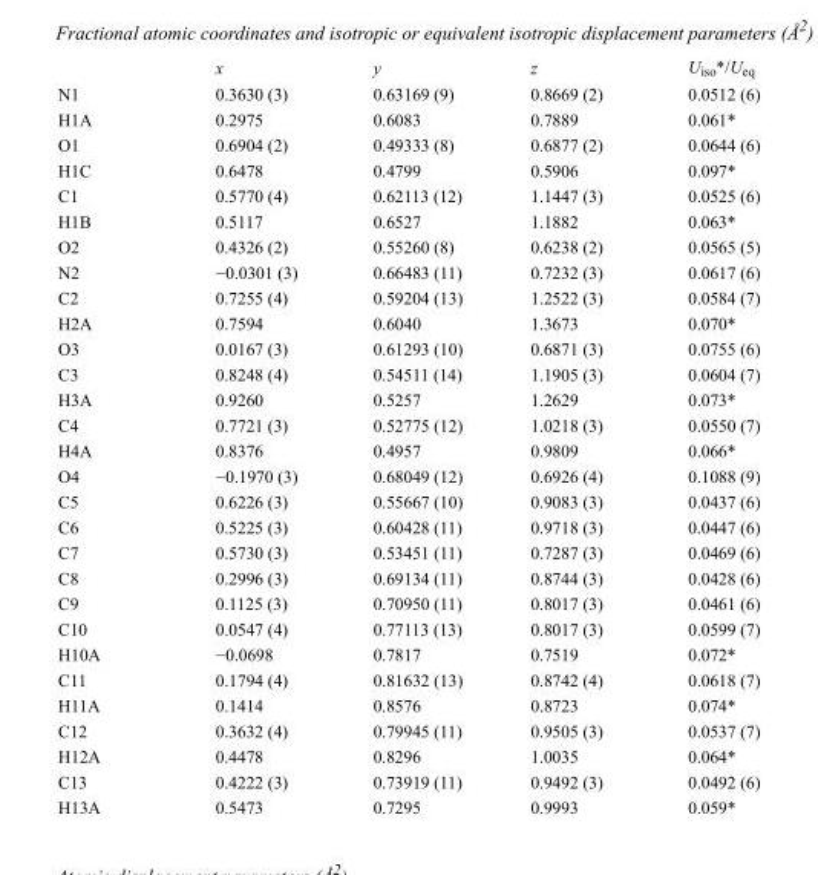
<table><thead><tr><td></td><td>x</td><td>y</td><td>z</td><td>U<sub>iso</sub>*/U<sub>eq</sub></td></tr></thead><tbody><tr><td>N1</td><td>0.3630 (3)</td><td>0.63169 (9)</td><td>0.8669 (2)</td><td>0.0512 (6)</td></tr><tr><td>H1A</td><td>0.2975</td><td>0.6083</td><td>0.7889</td><td>0.061*</td></tr><tr><td>O1</td><td>0.6904 (2)</td><td>0.49333 (8)</td><td>0.6877 (2)</td><td>0.0644 (6)</td></tr><tr><td>H1C</td><td>0.6478</td><td>0.4799</td><td>0.5906</td><td>0.097*</td></tr><tr><td>C1</td><td>0.5770 (4)</td><td>0.62113 (12)</td><td>1.1447 (3)</td><td>0.0525 (6)</td></tr><tr><td>H1B</td><td>0.5117</td><td>0.6527</td><td>1.1882</td><td>0.063*</td></tr><tr><td>O2</td><td>0.4326 (2)</td><td>0.55260 (8)</td><td>0.6238 (2)</td><td>0.0565 (5)</td></tr><tr><td>N2</td><td>−0.0301 (3)</td><td>0.66483 (11)</td><td>0.7232 (3)</td><td>0.0617 (6)</td></tr><tr><td>C2</td><td>0.7255 (4)</td><td>0.59204 (13)</td><td>1.2522 (3)</td><td>0.0584 (7)</td></tr><tr><td>H2A</td><td>0.7594</td><td>0.6040</td><td>1.3673</td><td>0.070*</td></tr><tr><td>O3</td><td>0.0167 (3)</td><td>0.61293 (10)</td><td>0.6871 (3)</td><td>0.0755 (6)</td></tr><tr><td>C3</td><td>0.8248 (4)</td><td>0.54511 (14)</td><td>1.1905 (3)</td><td>0.0604 (7)</td></tr><tr><td>H3A</td><td>0.9260</td><td>0.5257</td><td>1.2629</td><td>0.073*</td></tr><tr><td>C4</td><td>0.7721 (3)</td><td>0.52775 (12)</td><td>1.0218 (3)</td><td>0.0550 (7)</td></tr><tr><td>H4A</td><td>0.8376</td><td>0.4957</td><td>0.9809</td><td>0.066*</td></tr><tr><td>O4</td><td>−0.1970 (3)</td><td>0.68049 (12)</td><td>0.6926 (4)</td><td>0.1088 (9)</td></tr><tr><td>C5</td><td>0.6226 (3)</td><td>0.55667 (10)</td><td>0.9083 (3)</td><td>0.0437 (6)</td></tr><tr><td>C6</td><td>0.5225 (3)</td><td>0.60428 (11)</td><td>0.9718 (3)</td><td>0.0447 (6)</td></tr><tr><td>C7</td><td>0.5730 (3)</td><td>0.53451 (11)</td><td>0.7287 (3)</td><td>0.0469 (6)</td></tr><tr><td>C8</td><td>0.2996 (3)</td><td>0.69134 (11)</td><td>0.8744 (3)</td><td>0.0428 (6)</td></tr><tr><td>C9</td><td>0.1125 (3)</td><td>0.70950 (11)</td><td>0.8017 (3)</td><td>0.0461 (6)</td></tr><tr><td>C10</td><td>0.0547 (4)</td><td>0.77113 (13)</td><td>0.8017 (3)</td><td>0.0599 (7)</td></tr><tr><td>H10A</td><td>−0.0698</td><td>0.7817</td><td>0.7519</td><td>0.072*</td></tr><tr><td>C11</td><td>0.1794 (4)</td><td>0.81632 (13)</td><td>0.8742 (4)</td><td>0.0618 (7)</td></tr><tr><td>H11A</td><td>0.1414</td><td>0.8576</td><td>0.8723</td><td>0.074*</td></tr><tr><td>C12</td><td>0.3632 (4)</td><td>0.79945 (11)</td><td>0.9505 (3)</td><td>0.0537 (7)</td></tr><tr><td>H12A</td><td>0.4478</td><td>0.8296</td><td>1.0035</td><td>0.064*</td></tr><tr><td>C13</td><td>0.4222 (3)</td><td>0.73919 (11)</td><td>0.9492 (3)</td><td>0.0492 (6)</td></tr><tr><td>H13A</td><td>0.5473</td><td>0.7295</td><td>0.9993</td><td>0.059*</td></tr></tbody></table>